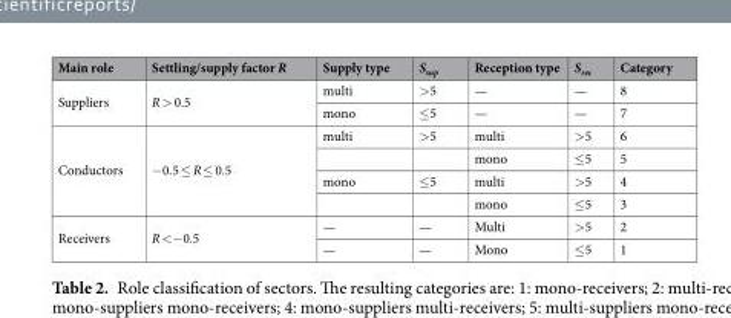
<table><thead><tr><td>Main role</td><td>Settling/supply factor R</td><td>Supply type</td><td>S<sub>sup</sub></td><td>Reception type</td><td>S<sub>rec</sub></td><td>Category</td></tr></thead><tbody><tr><td rowspan="2">Suppliers</td><td rowspan="2">R &gt; 0.5</td><td>multi</td><td>&gt;5</td><td>—</td><td>—</td><td>8</td></tr><tr><td>mono</td><td>≤5</td><td>—</td><td>—</td><td>7</td></tr><tr><td rowspan="4">Conductors</td><td rowspan="4">−0.5 ≤ R ≤ 0.5</td><td>multi</td><td>&gt;5</td><td>multi</td><td>&gt;5</td><td>6</td></tr><tr><td></td><td></td><td>mono</td><td>≤5</td><td>5</td></tr><tr><td>mono</td><td>≤5</td><td>multi</td><td>&gt;5</td><td>4</td></tr><tr><td></td><td></td><td>mono</td><td>≤5</td><td>3</td></tr><tr><td rowspan="2">Receivers</td><td rowspan="2">R &lt;−0.5</td><td>—</td><td>—</td><td>Multi</td><td>&gt;5</td><td>2</td></tr><tr><td>—</td><td>—</td><td>Mono</td><td>≤5</td><td>1</td></tr></tbody></table>